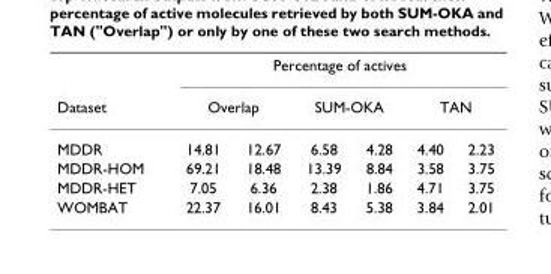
<table><thead><tr><td rowspan="3">Dataset MDDR</td><td colspan="6">Percentage of actives</td></tr><tr><td colspan="2">Overlap</td><td colspan="2">SUM-OKA</td><td colspan="2">TAN</td></tr><tr><td>14.81</td><td>12.67</td><td>6.58</td><td>4.28</td><td>4.40</td><td>2.23</td></tr></thead><tbody><tr><td>MDDR-HOM</td><td>69.21</td><td>18.48</td><td>13.39</td><td>8.84</td><td>3.58</td><td>3.75</td></tr><tr><td>MDDR-HET</td><td>7.05</td><td>6.36</td><td>2.38</td><td>1.86</td><td>4.71</td><td>3.75</td></tr><tr><td>WOMBAT</td><td>22.37</td><td>16.01</td><td>8.43</td><td>5.38</td><td>3.84</td><td>2.01</td></tr></tbody></table>